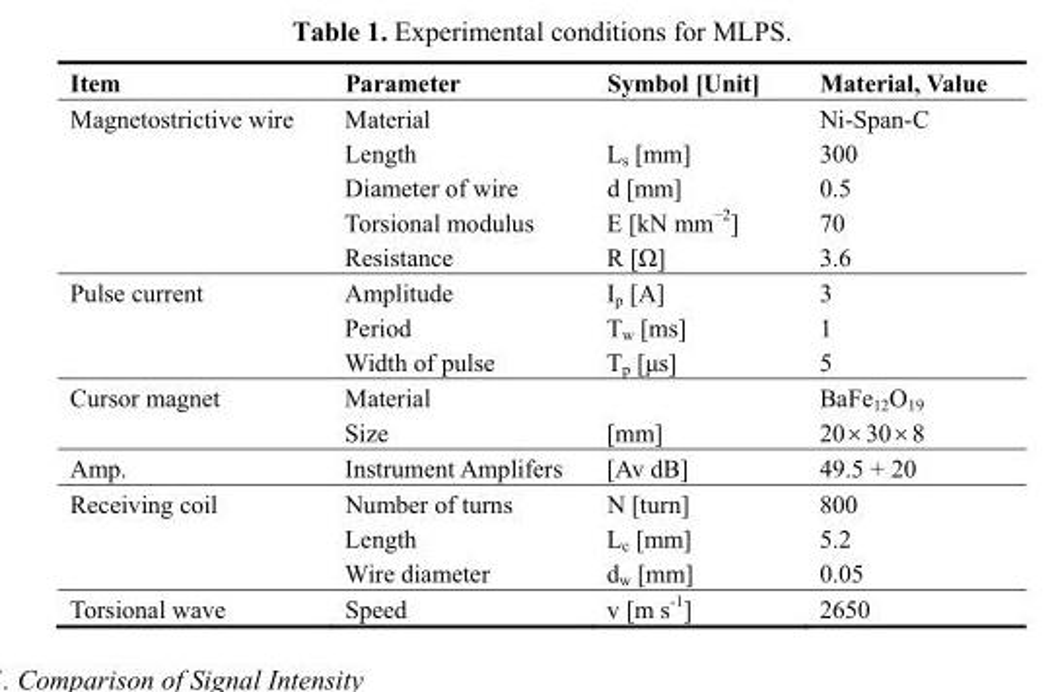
<table><thead><tr><td>Item</td><td>Parameter</td><td>Symbol [Unit]</td><td>Material, Value</td></tr></thead><tbody><tr><td rowspan="5">Magnetostrictive wire</td><td>Material</td><td></td><td>Ni-Span-C</td></tr><tr><td>Length</td><td>L<sub>s</sub> [mm]</td><td>300</td></tr><tr><td>Diameter of wire</td><td>d [mm]</td><td>0.5</td></tr><tr><td>Torsional modulus</td><td>E [kN mm<sup>−2</sup>]</td><td>70</td></tr><tr><td>Resistance</td><td>R [Ω]</td><td>3.6</td></tr><tr><td rowspan="3">Pulse current</td><td>Amplitude</td><td>I<sub>p</sub> [A]</td><td>3</td></tr><tr><td>Period</td><td>T<sub>w</sub> [ms]</td><td>1</td></tr><tr><td>Width of pulse</td><td>T<sub>p</sub> [μs]</td><td>5</td></tr><tr><td rowspan="2">Cursor magnet</td><td>Material</td><td></td><td>BaFe<sub>12</sub>O<sub>19</sub></td></tr><tr><td>Size</td><td>[mm]</td><td>20× 30× 8</td></tr><tr><td>Amp.</td><td>Instrument Amplifers</td><td>[Av dB]</td><td>49.5 + 20</td></tr><tr><td rowspan="3">Receiving coil</td><td>Number of turns</td><td>N [turn]</td><td>800</td></tr><tr><td>Length</td><td>L<sub>c</sub> [mm]</td><td>5.2</td></tr><tr><td>Wire diameter</td><td>d<sub>w</sub> [mm]</td><td>0.05</td></tr><tr><td>Torsional wave</td><td>Speed</td><td>v [m s<sup>-1</sup>]</td><td>2650</td></tr></tbody></table>